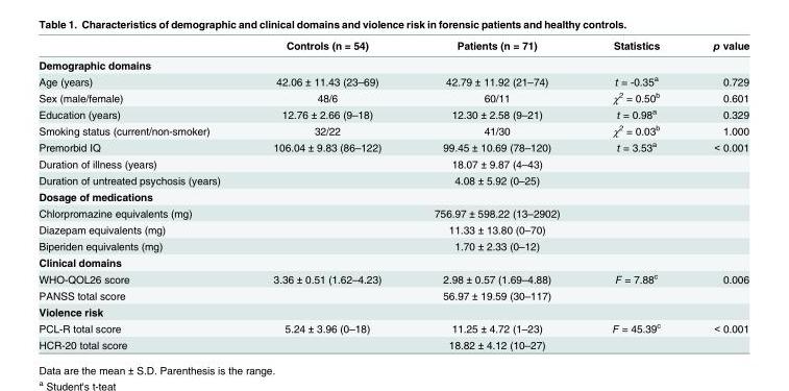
<table><thead><tr><td></td><td>Controls (n = 54)</td><td>Patients (n = 71)</td><td>Statistics</td><td>p value</td></tr></thead><tbody><tr><td colspan="5">Demographic domains</td></tr><tr><td>Age (years)</td><td>42.06 ± 11.43 (23–69)</td><td>42.79 ± 11.92 (21–74)</td><td>t = -0.35<sup>a</sup></td><td>0.729</td></tr><tr><td>Sex (male/female)</td><td>48/6</td><td>60/11</td><td>χ<sup>2</sup> = 0.50<sup>b</sup></td><td>0.601</td></tr><tr><td>Education (years)</td><td>12.76 ± 2.66 (9–18)</td><td>12.30 ± 2.58 (9–21)</td><td>t = 0.98<sup>a</sup></td><td>0.329</td></tr><tr><td>Smoking status (current/non-smoker)</td><td>32/22</td><td>41/30</td><td>χ<sup>2</sup> = 0.03<sup>b</sup></td><td>1.000</td></tr><tr><td>Premorbid IQ</td><td>106.04 ± 9.83 (86–122)</td><td>99.45 ± 10.69 (78–120)</td><td>t = 3.53<sup>a</sup></td><td>&lt; 0.001</td></tr><tr><td>Duration of illness (years)</td><td></td><td>18.07 ± 9.87 (4–43)</td><td></td><td></td></tr><tr><td>Duration of untreated psychosis (years)</td><td></td><td>4.08 ± 5.92 (0–25)</td><td></td><td></td></tr><tr><td colspan="5">Dosage of medications</td></tr><tr><td>Chlorpromazine equivalents (mg)</td><td></td><td>756.97 ± 598.22 (13–2902)</td><td></td><td></td></tr><tr><td>Diazepam equivalents (mg)</td><td></td><td>11.33 ± 13.80 (0–70)</td><td></td><td></td></tr><tr><td>Biperiden equivalents (mg)</td><td></td><td>1.70 ± 2.33 (0–12)</td><td></td><td></td></tr><tr><td colspan="5">Clinical domains</td></tr><tr><td>WHO-QOL26 score</td><td>3.36 ± 0.51 (1.62–4.23)</td><td>2.98 ± 0.57 (1.69–4.88)</td><td>F = 7.88<sup>c</sup></td><td>0.006</td></tr><tr><td>PANSS total score</td><td></td><td>56.97 ± 19.59 (30–117)</td><td></td><td></td></tr><tr><td colspan="5">Violence risk</td></tr><tr><td>PCL-R total score</td><td>5.24 ± 3.96 (0–18)</td><td>11.25 ± 4.72 (1–23)</td><td>F = 45.39<sup>c</sup></td><td>&lt; 0.001</td></tr><tr><td>HCR-20 total score</td><td></td><td>18.82 ± 4.12 (10–27)</td><td></td><td></td></tr></tbody></table>